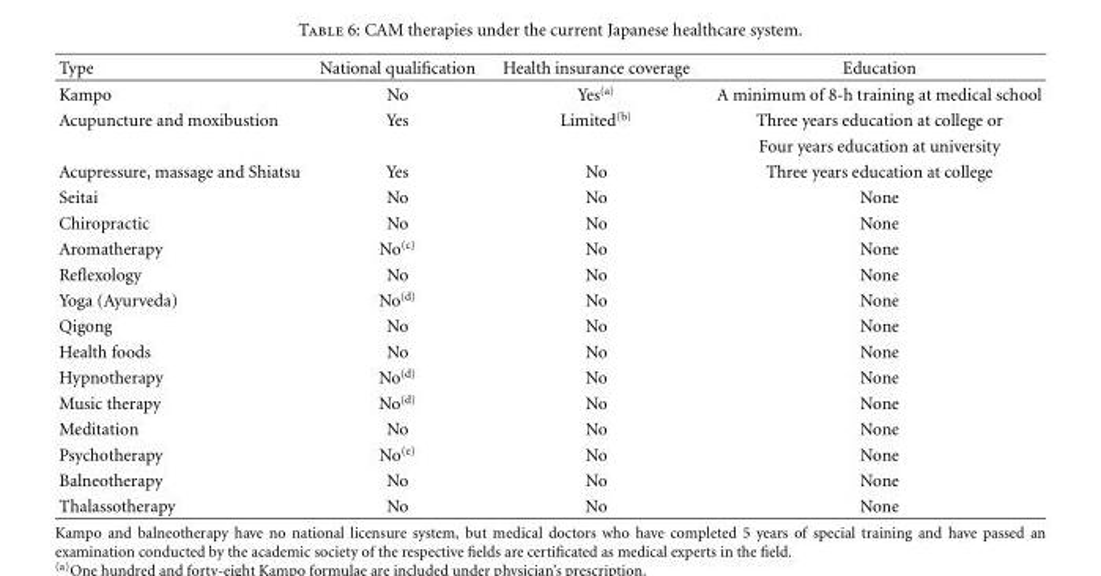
<table><thead><tr><td>Type</td><td>National qualification</td><td>Health insurance coverage</td><td>Education</td></tr></thead><tbody><tr><td>Kampo</td><td>No</td><td>Yes<sup>(a)</sup></td><td>A minimum of 8-h training at medical school</td></tr><tr><td rowspan="2">Acupuncture and moxibustion</td><td>Yes</td><td>Limited<sup>(b)</sup></td><td>Three years education at college or</td></tr><tr><td></td><td></td><td>Four years education at university</td></tr><tr><td>Acupressure, massage and Shiatsu</td><td>Yes</td><td>No</td><td>Three years education at college</td></tr><tr><td>Seitai</td><td>No</td><td>No</td><td>None</td></tr><tr><td>Chiropractic</td><td>No</td><td>No</td><td>None</td></tr><tr><td>Aromatherapy</td><td>No<sup>(c)</sup></td><td>No</td><td>None</td></tr><tr><td>Reflexology</td><td>No</td><td>No</td><td>None</td></tr><tr><td>Yoga (Ayurveda)</td><td>No<sup>(d)</sup></td><td>No</td><td>None</td></tr><tr><td>Qigong</td><td>No</td><td>No</td><td>None</td></tr><tr><td>Health foods</td><td>No</td><td>No</td><td>None</td></tr><tr><td>Hypnotherapy</td><td>No<sup>(d)</sup></td><td>No</td><td>None</td></tr><tr><td>Music therapy</td><td>No<sup>(d)</sup></td><td>No</td><td>None</td></tr><tr><td>Meditation</td><td>No</td><td>No</td><td>None</td></tr><tr><td>Psychotherapy</td><td>No<sup>(e)</sup></td><td>No</td><td>None</td></tr><tr><td>Balneotherapy</td><td>No</td><td>No</td><td>None</td></tr><tr><td>Thalassotherapy</td><td>No</td><td>No</td><td>None</td></tr></tbody></table>